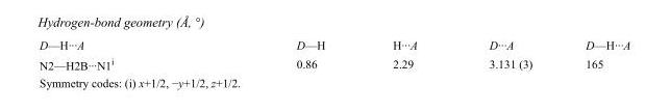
<table><tbody><tr><td>D—H···A</td><td>D—H</td><td>H···A</td><td>D···A</td><td>D—H···A</td></tr><tr><td>N2—H2B···N1<sup>i</sup></td><td>0.86</td><td>2.29</td><td>3.131 (3)</td><td>165</td></tr></tbody></table>